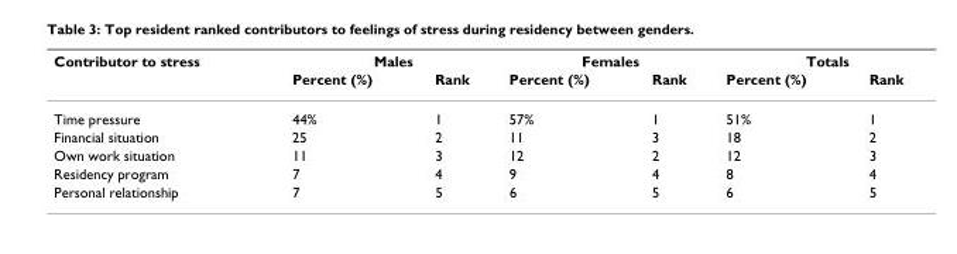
<table><thead><tr><td rowspan="2">Contributor to stress</td><td colspan="2">Males</td><td colspan="2">Females</td><td colspan="2">Totals</td></tr><tr><td>Percent (%)</td><td>Rank</td><td>Percent (%)</td><td>Rank</td><td>Percent (%)</td><td>Rank</td></tr></thead><tbody><tr><td>Time pressure</td><td>44%</td><td>1</td><td>57%</td><td>1</td><td>51%</td><td>1</td></tr><tr><td>Financial situation</td><td>25</td><td>2</td><td>11</td><td>3</td><td>18</td><td>2</td></tr><tr><td>Own work situation</td><td>11</td><td>3</td><td>12</td><td>2</td><td>12</td><td>3</td></tr><tr><td>Residency program</td><td>7</td><td>4</td><td>9</td><td>4</td><td>8</td><td>4</td></tr><tr><td>Personal relationship</td><td>7</td><td>5</td><td>6</td><td>5</td><td>6</td><td>5</td></tr></tbody></table>